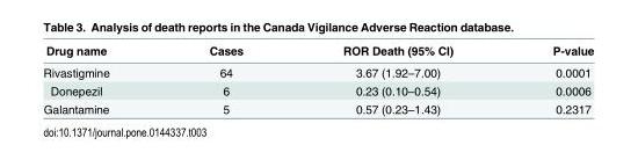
<table><thead><tr><td>Drug name</td><td>Cases</td><td>ROR Death (95% CI)</td><td>P-value</td></tr></thead><tbody><tr><td>Rivastigmine</td><td>64</td><td>3.67 (1.92–7.00)</td><td>0.0001</td></tr><tr><td>Donepezil</td><td>6</td><td>0.23 (0.10–0.54)</td><td>0.0006</td></tr><tr><td>Galantamine</td><td>5</td><td>0.57 (0.23–1.43)</td><td>0.2317</td></tr></tbody></table>